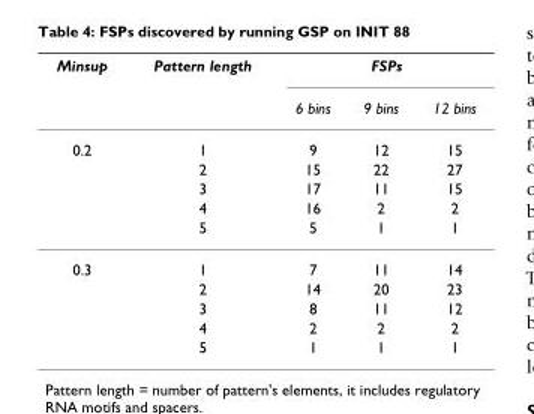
<table><thead><tr><td rowspan="2">Minsup</td><td rowspan="2">Pattern length</td><td colspan="3">FSPs</td></tr><tr><td>6 bins</td><td>9 bins</td><td>12 bins</td></tr></thead><tbody><tr><td rowspan="5">0.2</td><td>1</td><td>9</td><td>12</td><td>15</td></tr><tr><td>2</td><td>15</td><td>22</td><td>27</td></tr><tr><td>3</td><td>17</td><td>11</td><td>15</td></tr><tr><td>4</td><td>16</td><td>2</td><td>2</td></tr><tr><td>5</td><td>5</td><td>1</td><td>1</td></tr><tr><td rowspan="5">0.3</td><td>1</td><td>7</td><td>11</td><td>14</td></tr><tr><td>2</td><td>14</td><td>20</td><td>23</td></tr><tr><td>3</td><td>8</td><td>11</td><td>12</td></tr><tr><td>4</td><td>2</td><td>2</td><td>2</td></tr><tr><td>5</td><td>1</td><td>1</td><td>1</td></tr></tbody></table>